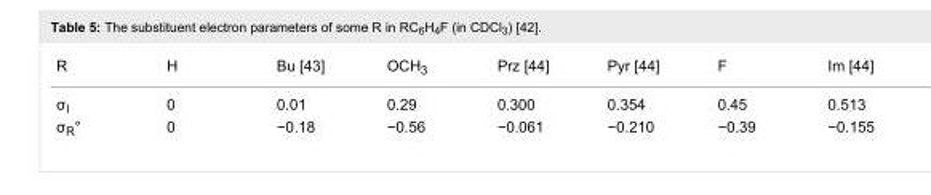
<table><tbody><tr><td>R</td><td>H</td><td>Bu [43]</td><td>OCH<sub>3</sub></td><td>Prz [44]</td><td>Pyr [44]</td><td>F</td><td>Im [44]</td></tr><tr><td>σ<sub>I</sub></td><td>0</td><td>0.01</td><td>0.29</td><td>0.300</td><td>0.354</td><td>0.45</td><td>0.513</td></tr><tr><td>σ<sub>R</sub>°</td><td>0</td><td>−0.18</td><td>−0.56</td><td>−0.061</td><td>−0.210</td><td>−0.39</td><td>−0.155</td></tr></tbody></table>